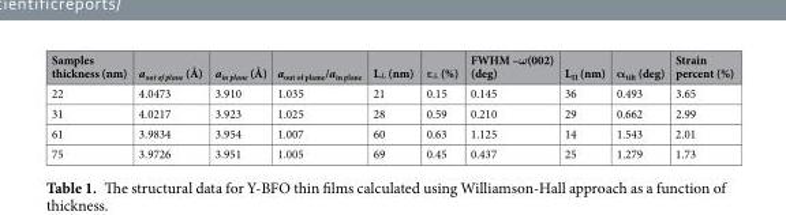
<table><thead><tr><td>Samples thickness (nm)</td><td>a<sub>out of plane</sub> (Å)</td><td>a<sub>in plane</sub> (Å)</td><td>a<sub>out of plame</sub>/a<sub>in plane</sub></td><td>L<sub>┴</sub> (nm)</td><td>ε<sub>┴</sub> (%)</td><td>FWHM –ω(002) (deg)</td><td>L<sub>II</sub> (nm)</td><td>α<sub>tilt</sub> (deg)</td><td>Strain percent (%)</td></tr></thead><tbody><tr><td>22</td><td>4.0473</td><td>3.910</td><td>1.035</td><td>21</td><td>0.15</td><td>0.145</td><td>36</td><td>0.493</td><td>3.65</td></tr><tr><td>31</td><td>4.0217</td><td>3.923</td><td>1.025</td><td>28</td><td>0.59</td><td>0.210</td><td>29</td><td>0.662</td><td>2.99</td></tr><tr><td>61</td><td>3.9834</td><td>3.954</td><td>1.007</td><td>60</td><td>0.63</td><td>1.125</td><td>14</td><td>1.543</td><td>2.01</td></tr><tr><td>75</td><td>3.9726</td><td>3.951</td><td>1.005</td><td>69</td><td>0.45</td><td>0.437</td><td>25</td><td>1.279</td><td>1.73</td></tr></tbody></table>